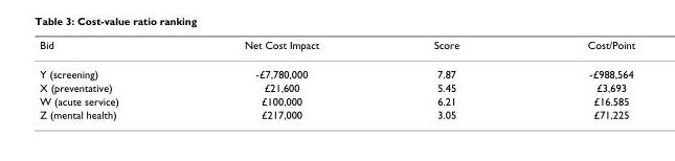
<table><thead><tr><td>Bid</td><td>Net Cost Impact</td><td>Score</td><td>Cost/Point</td></tr></thead><tbody><tr><td>Y (screening)</td><td>-£7,780,000</td><td>7.87</td><td>-£988,564</td></tr><tr><td>X (preventative)</td><td>£21,600</td><td>5.45</td><td>£3,693</td></tr><tr><td>W (acute service)</td><td>£100,000</td><td>6.21</td><td>£16.585</td></tr><tr><td>Z (mental health)</td><td>£217,000</td><td>3.05</td><td>£71,225</td></tr></tbody></table>